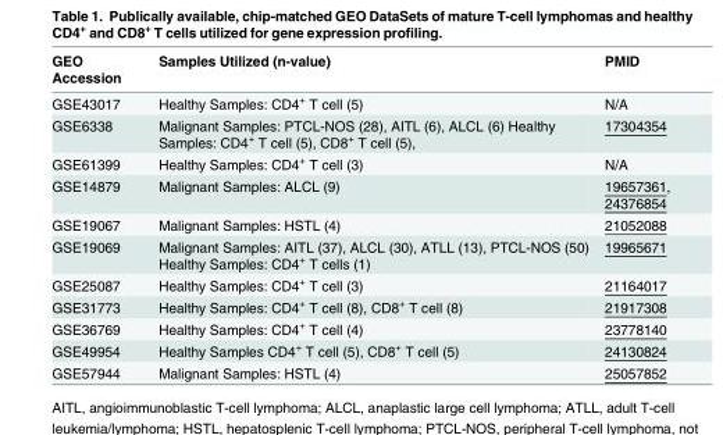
<table><thead><tr><td>GEO Accession</td><td>Samples Utilized (n-value)</td><td>PMID</td></tr></thead><tbody><tr><td>GSE43017</td><td>Healthy Samples: CD4<sup>+</sup> T cell (5)</td><td>N/A</td></tr><tr><td>GSE6338</td><td>Malignant Samples: PTCL-NOS (28), AITL (6), ALCL (6) Healthy Samples: CD4<sup>+</sup> T cell (5), CD8<sup>+</sup> T cell (5),</td><td>17304354</td></tr><tr><td>GSE61399</td><td>Healthy Samples: CD4<sup>+</sup> T cell (3)</td><td>N/A</td></tr><tr><td>GSE14879</td><td>Malignant Samples: ALCL (9)</td><td>19657361, 24376854</td></tr><tr><td>GSE19067</td><td>Malignant Samples: HSTL (4)</td><td>21052088</td></tr><tr><td>GSE19069</td><td>Malignant Samples: AITL (37), ALCL (30), ATLL (13), PTCL-NOS (50) Healthy Samples: CD4<sup>+</sup> T cells (1)</td><td>19965671</td></tr><tr><td>GSE25087</td><td>Healthy Samples: CD4<sup>+</sup> T cell (3)</td><td>21164017</td></tr><tr><td>GSE31773</td><td>Healthy Samples: CD4<sup>+</sup> T cell (8), CD8<sup>+</sup> T cell (8)</td><td>21917308</td></tr><tr><td>GSE36769</td><td>Healthy Samples: CD4<sup>+</sup> T cell (4)</td><td>23778140</td></tr><tr><td>GSE49954</td><td>Healthy Samples CD4<sup>+</sup> T cell (5), CD8<sup>+</sup> T cell (5)</td><td>24130824</td></tr><tr><td>GSE57944</td><td>Malignant Samples: HSTL (4)</td><td>25057852</td></tr></tbody></table>